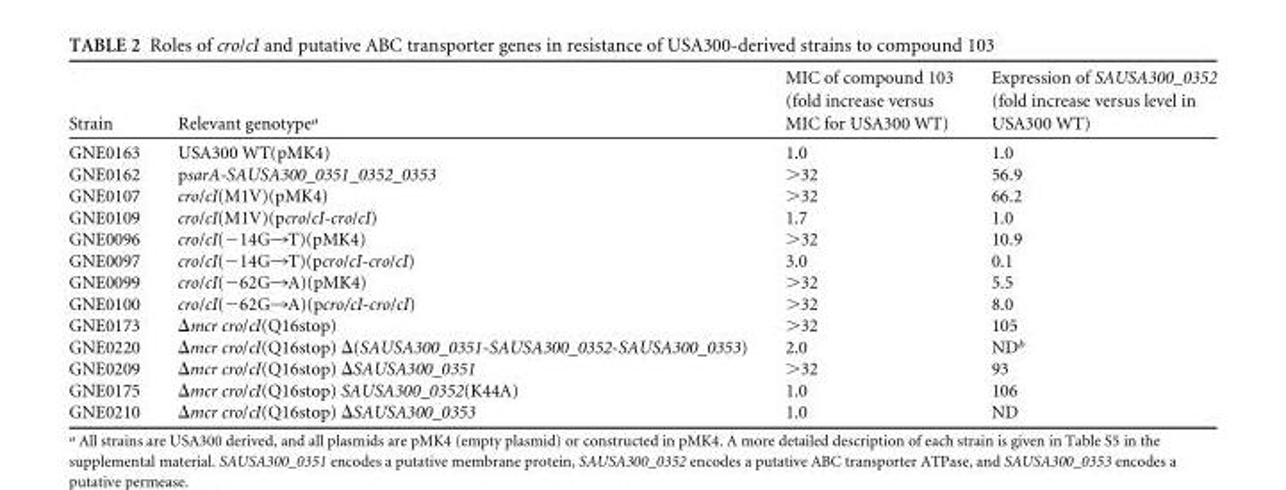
<table><thead><tr><td>Strain</td><td>Relevant genotype<sup>a</sup></td><td>MIC of compound 103 (fold increase versus MIC for USA300 WT)</td><td>Expression of SAUSA300_0352 (fold increase versus level in USA300 WT)</td></tr></thead><tbody><tr><td>GNE0163</td><td>USA300 WT(pMK4)</td><td>1.0</td><td>1.0</td></tr><tr><td>GNE0162</td><td>psarA-SAUSA300_0351_0352_0353</td><td>&gt;32</td><td>56.9</td></tr><tr><td>GNE0107</td><td>cro/cI(M1V)(pMK4)</td><td>&gt;32</td><td>66.2</td></tr><tr><td>GNE0109</td><td>cro/cI(M1V)(pcro/cI-cro/cI)</td><td>1.7</td><td>1.0</td></tr><tr><td>GNE0096</td><td>cro/cI(−14G→T)(pMK4)</td><td>&gt;32</td><td>10.9</td></tr><tr><td>GNE0097</td><td>cro/cI(−14G→T)(pcro/cI-cro/cI)</td><td>3.0</td><td>0.1</td></tr><tr><td>GNE0099</td><td>cro/cI(−62G→A)(pMK4)</td><td>&gt;32</td><td>5.5</td></tr><tr><td>GNE0100</td><td>cro/cI(−62G→A)(pcro/cI-cro/cI)</td><td>&gt;32</td><td>8.0</td></tr><tr><td>GNE0173</td><td>Δmcr cro/cI(Q16stop)</td><td>&gt;32</td><td>105</td></tr><tr><td>GNE0220</td><td>Δmcr cro/cI(Q16stop) Δ(SAUSA300_0351-SAUSA300_0352-SAUSA300_0353)</td><td>2.0</td><td>ND<sup>b</sup></td></tr><tr><td>GNE0209</td><td>Δmcr cro/cI(Q16stop) ΔSAUSA300_0351</td><td>&gt;32</td><td>93</td></tr><tr><td>GNE0175</td><td>Δmcr cro/cI(Q16stop) SAUSA300_0352(K44A)</td><td>1.0</td><td>106</td></tr><tr><td>GNE0210</td><td>Δmcr cro/cI(Q16stop) ΔSAUSA300_0353</td><td>1.0</td><td>ND</td></tr></tbody></table>